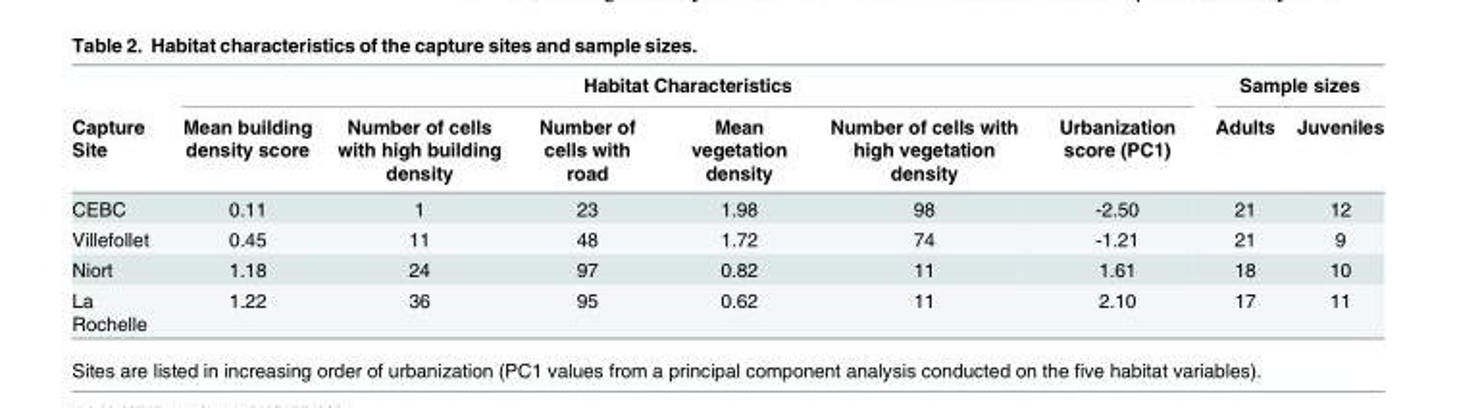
<table><thead><tr><td rowspan="2">Capture Site</td><td colspan="6">Habitat Characteristics</td><td colspan="2">Sample sizes</td></tr><tr><td>Mean building density score</td><td>Number of cells with high building density</td><td>Number of cells with road</td><td>Mean vegetation density</td><td>Number of cells with high vegetation density</td><td>Urbanization score (PC1)</td><td>Adults</td><td>Juveniles</td></tr></thead><tbody><tr><td>CEBC</td><td>0.11</td><td>1</td><td>23</td><td>1.98</td><td>98</td><td>-2.50</td><td>21</td><td>12</td></tr><tr><td>Villefollet</td><td>0.45</td><td>11</td><td>48</td><td>1.72</td><td>74</td><td>-1.21</td><td>21</td><td>9</td></tr><tr><td>Niort</td><td>1.18</td><td>24</td><td>97</td><td>0.82</td><td>11</td><td>1.61</td><td>18</td><td>10</td></tr><tr><td>La Rochelle</td><td>1.22</td><td>36</td><td>95</td><td>0.62</td><td>11</td><td>2.10</td><td>17</td><td>11</td></tr></tbody></table>